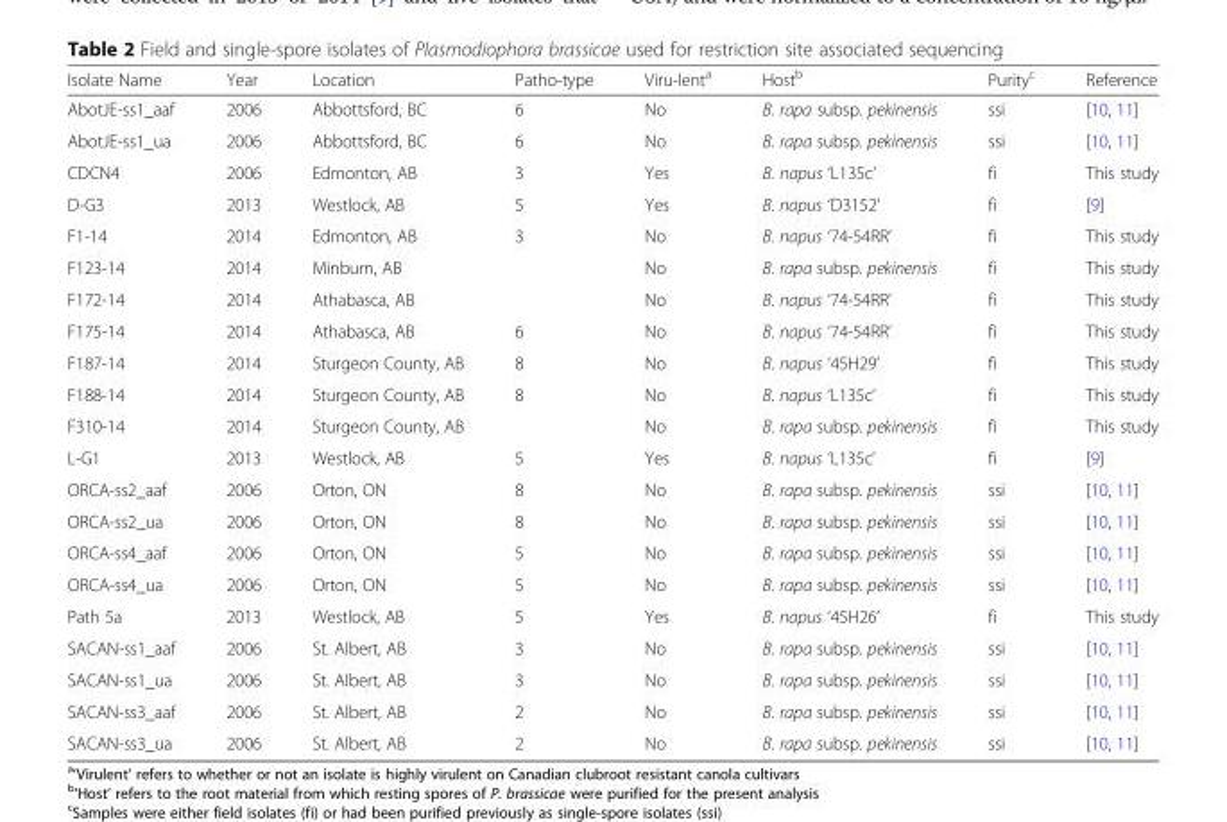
<table><thead><tr><td>Isolate Name</td><td>Year</td><td>Location</td><td>Patho-type</td><td>Viru-lent<sup>a</sup></td><td>Host<sup>b</sup></td><td>Purity<sup>c</sup></td><td>Reference</td></tr></thead><tbody><tr><td>AbotJE-ss1_aaf</td><td>2006</td><td>Abbottsford, BC</td><td>6</td><td>No</td><td>B. rapa subsp. pekinensis</td><td>ssi</td><td>[10, 11]</td></tr><tr><td>AbotJE-ss1_ua</td><td>2006</td><td>Abbottsford, BC</td><td>6</td><td>No</td><td>B. rapa subsp. pekinensis</td><td>ssi</td><td>[10, 11]</td></tr><tr><td>CDCN4</td><td>2006</td><td>Edmonton, AB</td><td>3</td><td>Yes</td><td>B. napus ‘L135c’</td><td>fi</td><td>This study</td></tr><tr><td>D-G3</td><td>2013</td><td>Westlock, AB</td><td>5</td><td>Yes</td><td>B. napus ‘D3152’</td><td>fi</td><td>[9]</td></tr><tr><td>F1-14</td><td>2014</td><td>Edmonton, AB</td><td>3</td><td>No</td><td>B. napus ‘74-54RR’</td><td>fi</td><td>This study</td></tr><tr><td>F123-14</td><td>2014</td><td>Minburn, AB</td><td></td><td>No</td><td>B. rapa subsp. pekinensis</td><td>fi</td><td>This study</td></tr><tr><td>F172-14</td><td>2014</td><td>Athabasca, AB</td><td></td><td>No</td><td>B. napus ‘74-54RR’</td><td>fi</td><td>This study</td></tr><tr><td>F175-14</td><td>2014</td><td>Athabasca, AB</td><td>6</td><td>No</td><td>B. napus ‘74-54RR’</td><td>fi</td><td>This study</td></tr><tr><td>F187-14</td><td>2014</td><td>Sturgeon County, AB</td><td>8</td><td>No</td><td>B. napus ‘45H29’</td><td>fi</td><td>This study</td></tr><tr><td>F188-14</td><td>2014</td><td>Sturgeon County, AB</td><td>8</td><td>No</td><td>B. napus ‘L135c’</td><td>fi</td><td>This study</td></tr><tr><td>F310-14</td><td>2014</td><td>Sturgeon County, AB</td><td></td><td>No</td><td>B. rapa subsp. pekinensis</td><td>fi</td><td>This study</td></tr><tr><td>L-G1</td><td>2013</td><td>Westlock, AB</td><td>5</td><td>Yes</td><td>B. napus ‘L135c’</td><td>fi</td><td>[9]</td></tr><tr><td>ORCA-ss2_aaf</td><td>2006</td><td>Orton, ON</td><td>8</td><td>No</td><td>B. rapa subsp. pekinensis</td><td>ssi</td><td>[10, 11]</td></tr><tr><td>ORCA-ss2_ua</td><td>2006</td><td>Orton, ON</td><td>8</td><td>No</td><td>B. rapa subsp. pekinensis</td><td>ssi</td><td>[10, 11]</td></tr><tr><td>ORCA-ss4_aaf</td><td>2006</td><td>Orton, ON</td><td>5</td><td>No</td><td>B. rapa subsp. pekinensis</td><td>ssi</td><td>[10, 11]</td></tr><tr><td>ORCA-ss4_ua</td><td>2006</td><td>Orton, ON</td><td>5</td><td>No</td><td>B. rapa subsp. pekinensis</td><td>ssi</td><td>[10, 11]</td></tr><tr><td>Path 5a</td><td>2013</td><td>Westlock, AB</td><td>5</td><td>Yes</td><td>B. napus ‘45H26’</td><td>fi</td><td>This study</td></tr><tr><td>SACAN-ss1_aaf</td><td>2006</td><td>St. Albert, AB</td><td>3</td><td>No</td><td>B. rapa subsp. pekinensis</td><td>ssi</td><td>[10, 11]</td></tr><tr><td>SACAN-ss1_ua</td><td>2006</td><td>St. Albert, AB</td><td>3</td><td>No</td><td>B. rapa subsp. pekinensis</td><td>ssi</td><td>[10, 11]</td></tr><tr><td>SACAN-ss3_aaf</td><td>2006</td><td>St. Albert, AB</td><td>2</td><td>No</td><td>B. rapa subsp. pekinensis</td><td>ssi</td><td>[10, 11]</td></tr><tr><td>SACAN-ss3_ua</td><td>2006</td><td>St. Albert, AB</td><td>2</td><td>No</td><td>B. rapa subsp. pekinensis</td><td>ssi</td><td>[10, 11]</td></tr></tbody></table>